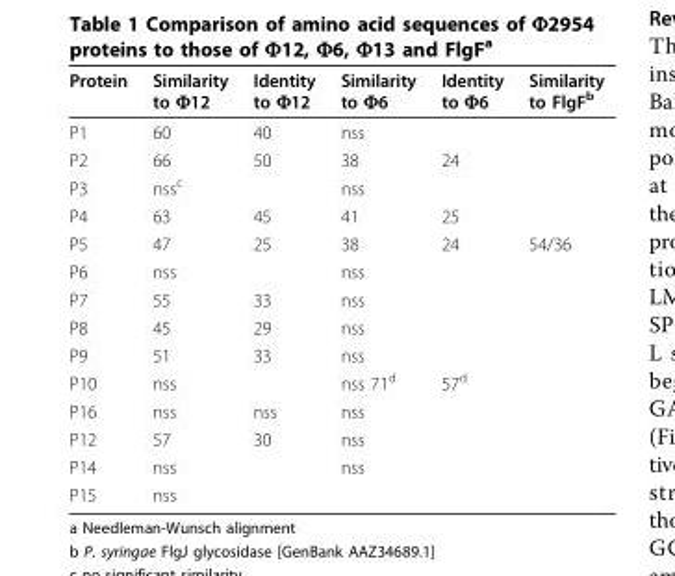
<table><thead><tr><td>Protein</td><td>Similarity to Φ12</td><td>Identity to Φ12</td><td>Similarity to Φ6</td><td>Identity to Φ6</td><td>Similarity to FlgF<sup>b</sup></td></tr></thead><tbody><tr><td>P1</td><td>60</td><td>40</td><td>nss</td><td></td><td></td></tr><tr><td>P2</td><td>66</td><td>50</td><td>38</td><td>24</td><td></td></tr><tr><td>P3</td><td>nss<sup>c</sup></td><td></td><td>nss</td><td></td><td></td></tr><tr><td>P4</td><td>63</td><td>45</td><td>41</td><td>25</td><td></td></tr><tr><td>P5</td><td>47</td><td>25</td><td>38</td><td>24</td><td>54/36</td></tr><tr><td>P6</td><td>nss</td><td></td><td>nss</td><td></td><td></td></tr><tr><td>P7</td><td>55</td><td>33</td><td>nss</td><td></td><td></td></tr><tr><td>P8</td><td>45</td><td>29</td><td>nss</td><td></td><td></td></tr><tr><td>P9</td><td>51</td><td>33</td><td>nss</td><td></td><td></td></tr><tr><td>P10</td><td>nss</td><td></td><td>nss 71<sup>d</sup></td><td>57<sup>d</sup></td><td></td></tr><tr><td>P16</td><td>nss</td><td>nss</td><td>nss</td><td></td><td></td></tr><tr><td>P12</td><td>57</td><td>30</td><td>nss</td><td></td><td></td></tr><tr><td>P14</td><td>nss</td><td></td><td>nss</td><td></td><td></td></tr><tr><td>P15</td><td>nss</td><td></td><td></td><td></td><td></td></tr></tbody></table>